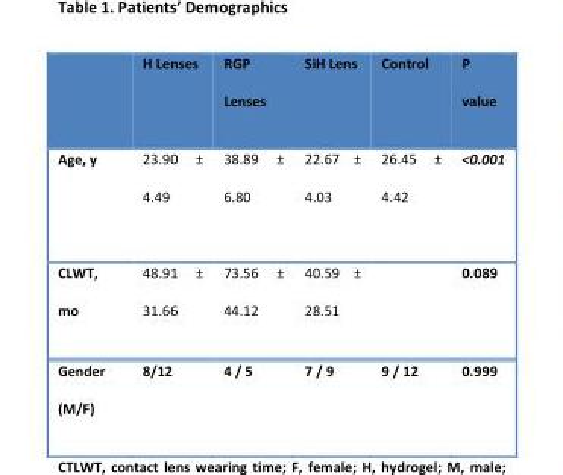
<table><thead><tr><td></td><td>H Lenses</td><td>RGP Lenses</td><td>SiH Lens</td><td>Control</td><td>P value</td></tr></thead><tbody><tr><td>Age, y</td><td>23.90 ± 4.49</td><td>38.89 ± 6.80</td><td>22.67 ± 4.03</td><td>26.45 ± 4.42</td><td>&lt;0.001</td></tr><tr><td>CLWT, mo</td><td>48.91 ± 31.66</td><td>73.56 ± 44.12</td><td>40.59 ± 28.51</td><td></td><td>0.089</td></tr><tr><td>Gender (M/F)</td><td>8/12</td><td>4 / 5</td><td>7 / 9</td><td>9 / 12</td><td>0.999</td></tr></tbody></table>